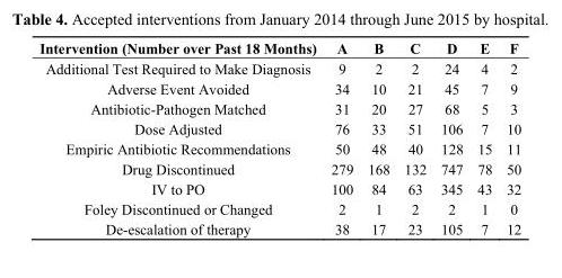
<table><thead><tr><td>Intervention (Number over Past 18 Months)</td><td>A</td><td>B</td><td>C</td><td>D</td><td>E</td><td>F</td></tr></thead><tbody><tr><td>Additional Test Required to Make Diagnosis</td><td>9</td><td>2</td><td>2</td><td>24</td><td>4</td><td>2</td></tr><tr><td>Adverse Event Avoided</td><td>34</td><td>10</td><td>21</td><td>45</td><td>7</td><td>9</td></tr><tr><td>Antibiotic-Pathogen Matched</td><td>31</td><td>20</td><td>27</td><td>68</td><td>5</td><td>3</td></tr><tr><td>Dose Adjusted</td><td>76</td><td>33</td><td>51</td><td>106</td><td>7</td><td>10</td></tr><tr><td>Empiric Antibiotic Recommendations</td><td>50</td><td>48</td><td>40</td><td>128</td><td>15</td><td>11</td></tr><tr><td>Drug Discontinued</td><td>279</td><td>168</td><td>132</td><td>747</td><td>78</td><td>50</td></tr><tr><td>IV to PO</td><td>100</td><td>84</td><td>63</td><td>345</td><td>43</td><td>32</td></tr><tr><td>Foley Discontinued or Changed</td><td>2</td><td>1</td><td>2</td><td>2</td><td>1</td><td>0</td></tr><tr><td>De-escalation of therapy</td><td>38</td><td>17</td><td>23</td><td>105</td><td>7</td><td>12</td></tr></tbody></table>